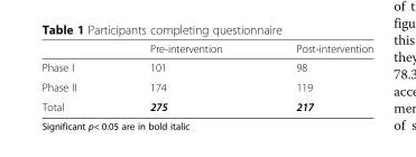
<table><thead><tr><td></td><td>Pre-intervention</td><td>Post-intervention</td></tr></thead><tbody><tr><td>Phase I</td><td>101</td><td>98</td></tr><tr><td>Phase II</td><td>174</td><td>119</td></tr><tr><td>Total</td><td>275</td><td>217</td></tr></tbody></table>